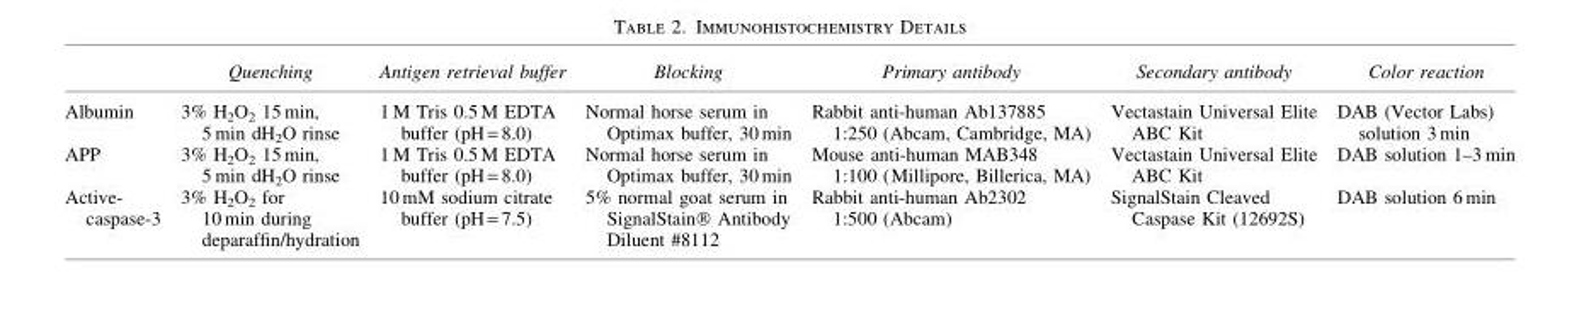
<table><thead><tr><td></td><td>Quenching</td><td>Antigen retrieval buffer</td><td>Blocking</td><td>Primary antibody</td><td>Secondary antibody</td><td>Color reaction</td></tr></thead><tbody><tr><td>Albumin</td><td>3% H<sub>2</sub>O<sub>2</sub> 15 min, 5 min dH<sub>2</sub>O rinse</td><td>1 M Tris 0.5 M EDTA buffer (pH = 8.0)</td><td>Normal horse serum in Optimax buffer, 30 min</td><td>Rabbit anti-human Ab137885 1:250 (Abcam, Cambridge, MA)</td><td>Vectastain Universal Elite ABC Kit</td><td>DAB (Vector Labs) solution 3 min</td></tr><tr><td>APP</td><td>3% H<sub>2</sub>O<sub>2</sub> 15 min, 5 min dH<sub>2</sub>O rinse</td><td>1 M Tris 0.5 M EDTA buffer (pH = 8.0)</td><td>Normal horse serum in Optimax buffer, 30 min</td><td>Mouse anti-human MAB348 1:100 (Millipore, Billerica, MA)</td><td>Vectastain Universal Elite ABC Kit</td><td>DAB solution 1–3 min</td></tr><tr><td>Active- caspase-3</td><td>3% H<sub>2</sub>O<sub>2</sub> for 10 min during deparaffin/hydration</td><td>10 mM sodium citrate buffer (pH = 7.5)</td><td>5% normal goat serum in SignalStain® Antibody Diluent #8112</td><td>Rabbit anti-human Ab2302 1:500 (Abcam)</td><td>SignalStain Cleaved Caspase Kit (12692S)</td><td>DAB solution 6 min</td></tr></tbody></table>